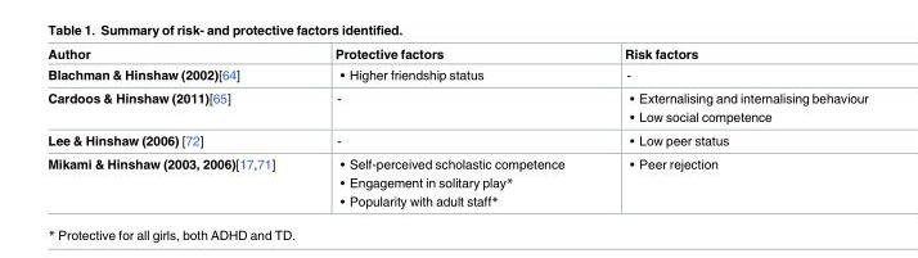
<table><thead><tr><td>Author</td><td>Protective factors</td><td>Risk factors</td></tr></thead><tbody><tr><td>Blachman &amp; Hinshaw (2002)[64]</td><td>• Higher friendship status</td><td>-</td></tr><tr><td>Cardoos &amp; Hinshaw (2011)[65]</td><td>-</td><td>• Externalising and internalising behaviour • Low social competence</td></tr><tr><td>Lee &amp; Hinshaw (2006) [72]</td><td>-</td><td>• Low peer status</td></tr><tr><td>Mikami &amp; Hinshaw (2003, 2006)[17,71]</td><td>• Self-perceived scholastic competence • Engagement in solitary play* • Popularity with adult staff*</td><td>• Peer rejection</td></tr></tbody></table>